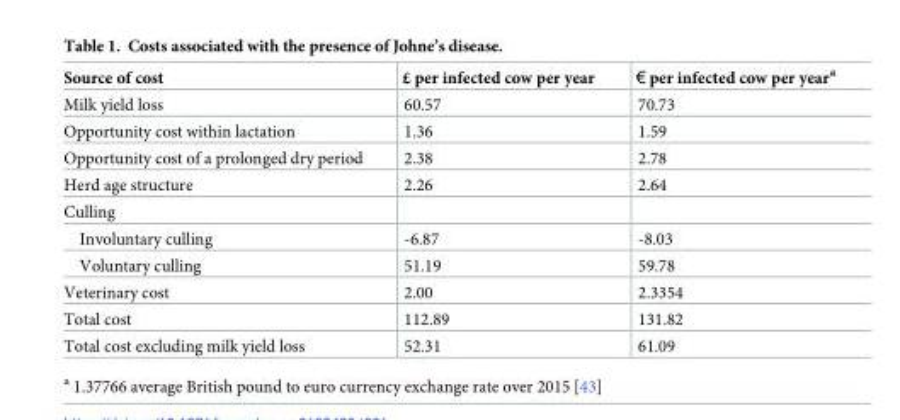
<table><thead><tr><td>Source of cost</td><td>£ per infected cow per year</td><td>€ per infected cow per year<sup>a</sup></td></tr></thead><tbody><tr><td>Milk yield loss</td><td>60.57</td><td>70.73</td></tr><tr><td>Opportunity cost within lactation</td><td>1.36</td><td>1.59</td></tr><tr><td>Opportunity cost of a prolonged dry period</td><td>2.38</td><td>2.78</td></tr><tr><td>Herd age structure</td><td>2.26</td><td>2.64</td></tr><tr><td colspan="3">Culling</td></tr><tr><td>Involuntary culling</td><td>-6.87</td><td>-8.03</td></tr><tr><td>Voluntary culling</td><td>51.19</td><td>59.78</td></tr><tr><td>Veterinary cost</td><td>2.00</td><td>2.3354</td></tr><tr><td>Total cost</td><td>112.89</td><td>131.82</td></tr><tr><td>Total cost excluding milk yield loss</td><td>52.31</td><td>61.09</td></tr></tbody></table>